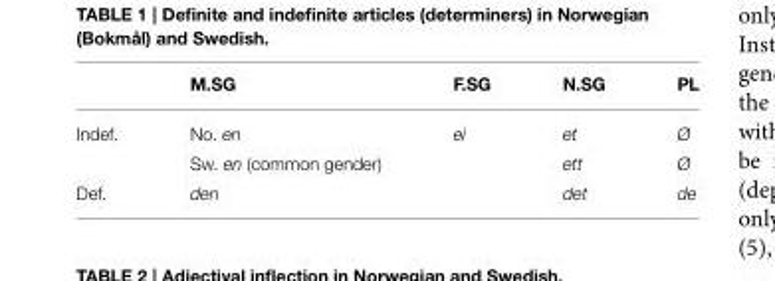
<table><thead><tr><td></td><td>M.SG</td><td>F.SG</td><td>N.SG</td><td>PL</td></tr></thead><tbody><tr><td rowspan="2">Indef.</td><td>No. en</td><td>ei</td><td>et</td><td>Ø</td></tr><tr><td>Sw. en (common gender)</td><td></td><td>ett</td><td>Ø</td></tr><tr><td>Def.</td><td>den</td><td></td><td>det</td><td>de</td></tr></tbody></table>